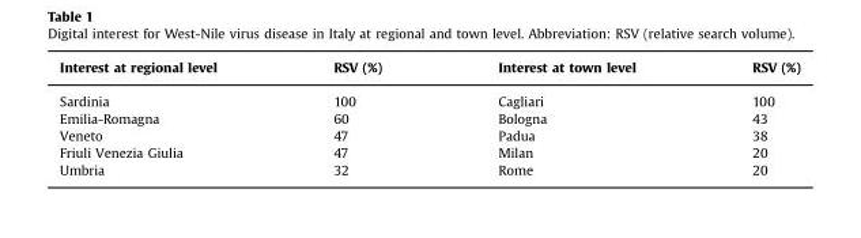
<table><thead><tr><td>Interest at regional level</td><td>RSV (%)</td><td>Interest at town level</td><td>RSV (%)</td></tr></thead><tbody><tr><td>Sardinia</td><td>100</td><td>Cagliari</td><td>100</td></tr><tr><td>Emilia-Romagna</td><td>60</td><td>Bologna</td><td>43</td></tr><tr><td>Veneto</td><td>47</td><td>Padua</td><td>38</td></tr><tr><td>Friuli Venezia Giulia</td><td>47</td><td>Milan</td><td>20</td></tr><tr><td>Umbria</td><td>32</td><td>Rome</td><td>20</td></tr></tbody></table>